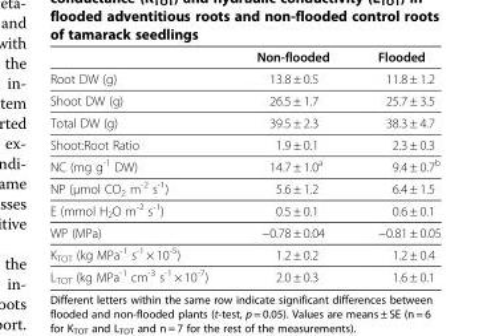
<table><thead><tr><td></td><td>Non-flooded</td><td>Flooded</td></tr></thead><tbody><tr><td>Root DW (g)</td><td>13.8 ± 0.5</td><td>11.8 ± 1.2</td></tr><tr><td>Shoot DW (g)</td><td>26.5 ± 1.7</td><td>25.7 ± 3.5</td></tr><tr><td>Total DW (g)</td><td>39.5 ± 2.3</td><td>38.3 ± 4.7</td></tr><tr><td>Shoot:Root Ratio</td><td>1.9 ± 0.1</td><td>2.3 ± 0.3</td></tr><tr><td>NC (mg g<sup>-1</sup> DW)</td><td>14.7 ± 1.0<sup>a</sup></td><td>9.4 ± 0.7<sup>b</sup></td></tr><tr><td>NP (μmol CO<sub>2</sub> m<sup>-2</sup> s<sup>-1</sup>)</td><td>5.6 ± 1.2</td><td>6.4 ± 1.5</td></tr><tr><td>E (mmol H<sub>2</sub>O m<sup>-2</sup> s<sup>-1</sup>)</td><td>0.5 ± 0.1</td><td>0.6 ± 0.1</td></tr><tr><td>WP (MPa)</td><td>−0.78 ± 0.04</td><td>−0.81 ± 0.05</td></tr><tr><td>K<sub>TOT</sub> (kg MPa<sup>-1</sup> s<sup>-1</sup> × 10<sup>-5</sup>)</td><td>1.2 ± 0.2</td><td>1.2 ± 0.4</td></tr><tr><td>L<sub>TOT</sub> (kg MPa<sup>-1</sup> cm<sup>-3</sup> s<sup>-1</sup> × 10<sup>-7</sup>)</td><td>2.0 ± 0.3</td><td>1.6 ± 0.1</td></tr></tbody></table>